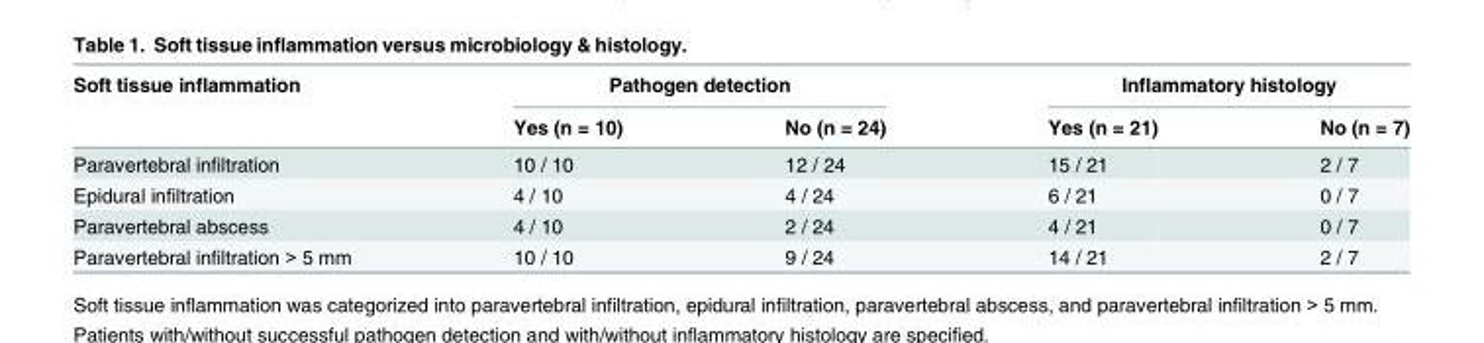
<table><thead><tr><td rowspan="2">Soft tissue inflammation</td><td colspan="2">Pathogen detection</td><td colspan="2">Inflammatory histology</td></tr><tr><td>Yes (n = 10)</td><td>No (n = 24)</td><td>Yes (n = 21)</td><td>No (n = 7)</td></tr></thead><tbody><tr><td>Paravertebral infiltration</td><td>10 / 10</td><td>12 / 24</td><td>15 / 21</td><td>2 / 7</td></tr><tr><td>Epidural infiltration</td><td>4 / 10</td><td>4 / 24</td><td>6 / 21</td><td>0 / 7</td></tr><tr><td>Paravertebral abscess</td><td>4 / 10</td><td>2 / 24</td><td>4 / 21</td><td>0 / 7</td></tr><tr><td>Paravertebral infiltration &gt; 5 mm</td><td>10 / 10</td><td>9 / 24</td><td>14 / 21</td><td>2 / 7</td></tr></tbody></table>